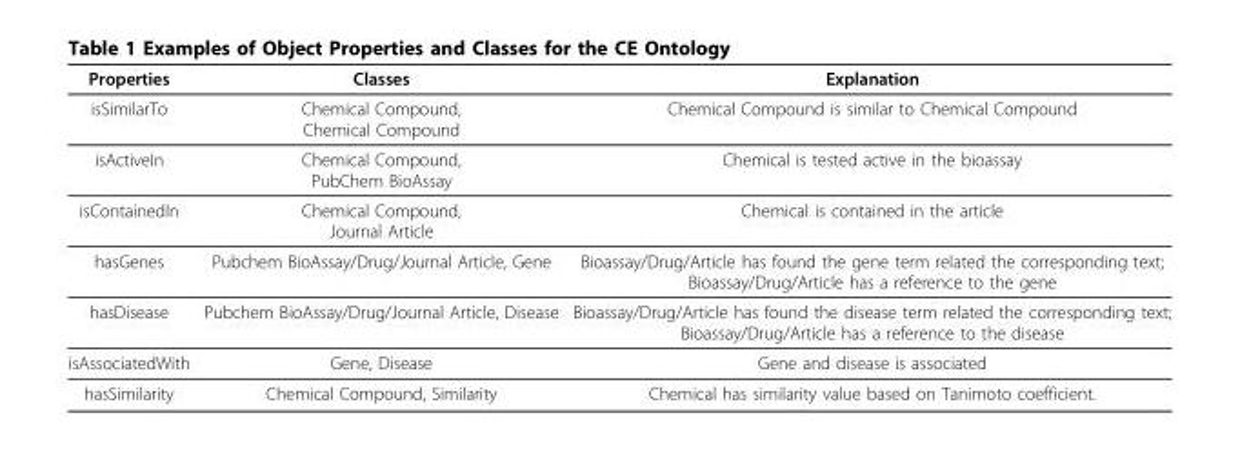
<table><thead><tr><td>Properties</td><td>Classes</td><td>Explanation</td></tr></thead><tbody><tr><td>isSimilarTo</td><td>Chemical Compound, Chemical Compound</td><td>Chemical Compound is similar to Chemical Compound</td></tr><tr><td>isActiveIn</td><td>Chemical Compound, PubChem BioAssay</td><td>Chemical is tested active in the bioassay</td></tr><tr><td>isContainedIn</td><td>Chemical Compound, Journal Article</td><td>Chemical is contained in the article</td></tr><tr><td>hasGenes</td><td>Pubchem BioAssay/Drug/Journal Article, Gene</td><td>Bioassay/Drug/Article has found the gene term related the corresponding text; Bioassay/Drug/Article has a reference to the gene</td></tr><tr><td>hasDisease</td><td>Pubchem BioAssay/Drug/Journal Article, Disease</td><td>Bioassay/Drug/Article has found the disease term related the corresponding text; Bioassay/Drug/Article has a reference to the disease</td></tr><tr><td>isAssociatedWith</td><td>Gene, Disease</td><td>Gene and disease is associated</td></tr><tr><td>hasSimilarity</td><td>Chemical Compound, Similarity</td><td>Chemical has similarity value based on Tanimoto coefficient.</td></tr></tbody></table>